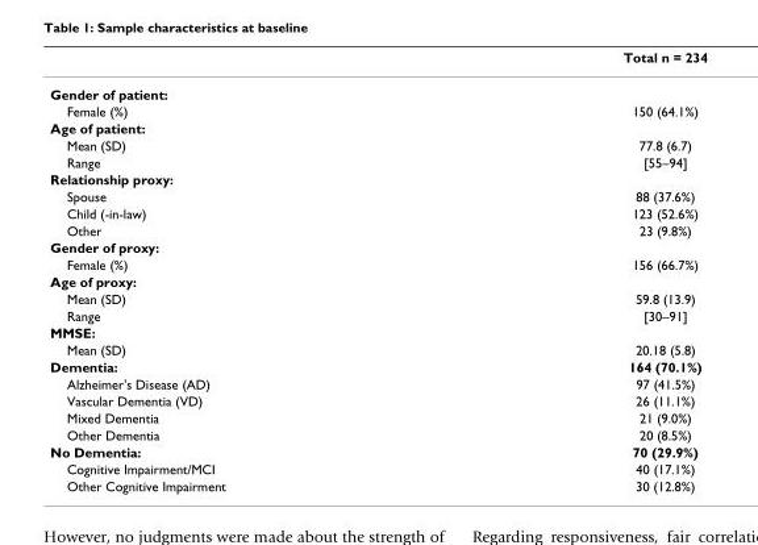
<table><thead><tr><td></td><td>Total n = 234</td></tr></thead><tbody><tr><td colspan="2">Gender of patient:</td></tr><tr><td>Female (%)</td><td>150 (64.1%)</td></tr><tr><td colspan="2">Age of patient:</td></tr><tr><td>Mean (SD)</td><td>77.8 (6.7)</td></tr><tr><td>Range</td><td>[55–94]</td></tr><tr><td colspan="2">Relationship proxy:</td></tr><tr><td>Spouse</td><td>88 (37.6%)</td></tr><tr><td>Child (-in-law)</td><td>123 (52.6%)</td></tr><tr><td>Other</td><td>23 (9.8%)</td></tr><tr><td colspan="2">Gender of proxy:</td></tr><tr><td>Female (%)</td><td>156 (66.7%)</td></tr><tr><td colspan="2">Age of proxy:</td></tr><tr><td>Mean (SD)</td><td>59.8 (13.9)</td></tr><tr><td>Range</td><td>[30–91]</td></tr><tr><td colspan="2">MMSE:</td></tr><tr><td>Mean (SD)</td><td>20.18 (5.8)</td></tr><tr><td>Dementia:</td><td>164 (70.1%)</td></tr><tr><td>Alzheimer&#x27;s Disease (AD)</td><td>97 (41.5%)</td></tr><tr><td>Vascular Dementia (VD)</td><td>26 (11.1%)</td></tr><tr><td>Mixed Dementia</td><td>21 (9.0%)</td></tr><tr><td>Other Dementia</td><td>20 (8.5%)</td></tr><tr><td>No Dementia:</td><td>70 (29.9%)</td></tr><tr><td>Cognitive Impairment/MCI</td><td>40 (17.1%)</td></tr><tr><td>Other Cognitive Impairment</td><td>30 (12.8%)</td></tr></tbody></table>